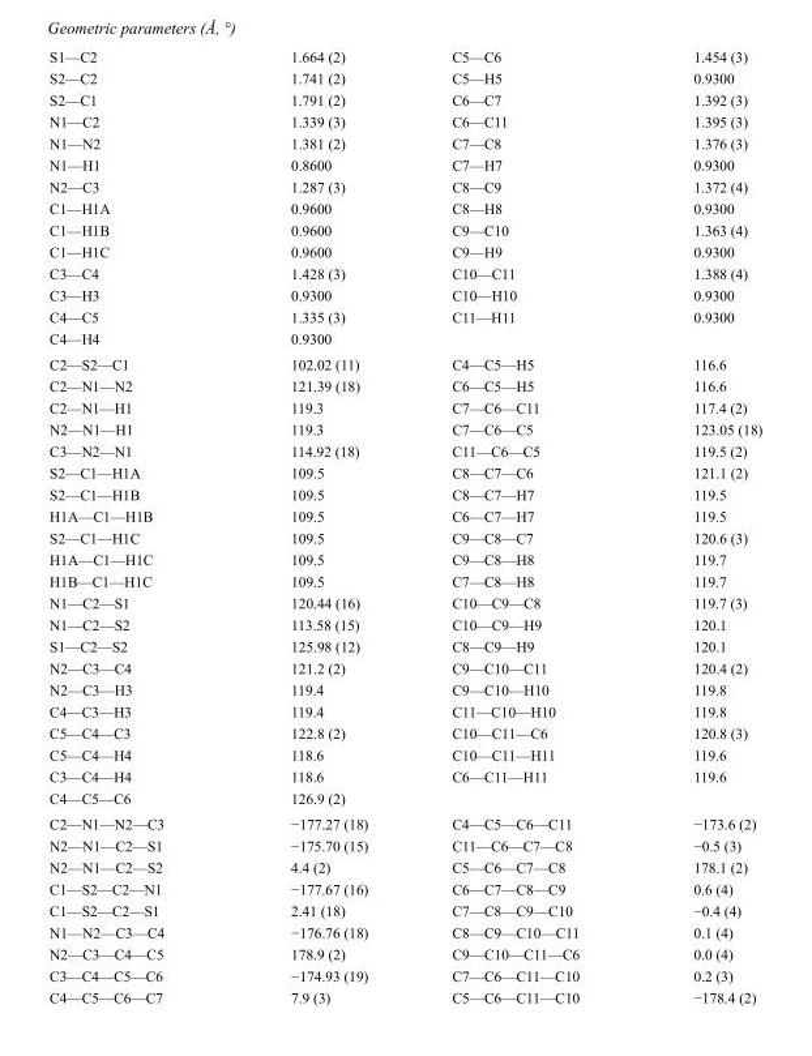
<table><tbody><tr><td>S1—C2</td><td>1.664 (2)</td><td>C5—C6</td><td>1.454 (3)</td></tr><tr><td>S2—C2</td><td>1.741 (2)</td><td>C5—H5</td><td>0.9300</td></tr><tr><td>S2—C1</td><td>1.791 (2)</td><td>C6—C7</td><td>1.392 (3)</td></tr><tr><td>N1—C2</td><td>1.339 (3)</td><td>C6—C11</td><td>1.395 (3)</td></tr><tr><td>N1—N2</td><td>1.381 (2)</td><td>C7—C8</td><td>1.376 (3)</td></tr><tr><td>N1—H1</td><td>0.8600</td><td>C7—H7</td><td>0.9300</td></tr><tr><td>N2—C3</td><td>1.287 (3)</td><td>C8—C9</td><td>1.372 (4)</td></tr><tr><td>C1—H1A</td><td>0.9600</td><td>C8—H8</td><td>0.9300</td></tr><tr><td>C1—H1B</td><td>0.9600</td><td>C9—C10</td><td>1.363 (4)</td></tr><tr><td>C1—H1C</td><td>0.9600</td><td>C9—H9</td><td>0.9300</td></tr><tr><td>C3—C4</td><td>1.428 (3)</td><td>C10—C11</td><td>1.388 (4)</td></tr><tr><td>C3—H3</td><td>0.9300</td><td>C10—H10</td><td>0.9300</td></tr><tr><td>C4—C5</td><td>1.335 (3)</td><td>C11—H11</td><td>0.9300</td></tr><tr><td>C4—H4</td><td>0.9300</td><td></td><td></td></tr><tr><td>C2—S2—C1</td><td>102.02 (11)</td><td>C4—C5—H5</td><td>116.6</td></tr><tr><td>C2—N1—N2</td><td>121.39 (18)</td><td>C6—C5—H5</td><td>116.6</td></tr><tr><td>C2—N1—H1</td><td>119.3</td><td>C7—C6—C11</td><td>117.4 (2)</td></tr><tr><td>N2—N1—H1</td><td>119.3</td><td>C7—C6—C5</td><td>123.05 (18)</td></tr><tr><td>C3—N2—N1</td><td>114.92 (18)</td><td>C11—C6—C5</td><td>119.5 (2)</td></tr><tr><td>S2—C1—H1A</td><td>109.5</td><td>C8—C7—C6</td><td>121.1 (2)</td></tr><tr><td>S2—C1—H1B</td><td>109.5</td><td>C8—C7—H7</td><td>119.5</td></tr><tr><td>H1A—C1—H1B</td><td>109.5</td><td>C6—C7—H7</td><td>119.5</td></tr><tr><td>S2—C1—H1C</td><td>109.5</td><td>C9—C8—C7</td><td>120.6 (3)</td></tr><tr><td>H1A—C1—H1C</td><td>109.5</td><td>C9—C8—H8</td><td>119.7</td></tr><tr><td>H1B—C1—H1C</td><td>109.5</td><td>C7—C8—H8</td><td>119.7</td></tr><tr><td>N1—C2—S1</td><td>120.44 (16)</td><td>C10—C9—C8</td><td>119.7 (3)</td></tr><tr><td>N1—C2—S2</td><td>113.58 (15)</td><td>C10—C9—H9</td><td>120.1</td></tr><tr><td>S1—C2—S2</td><td>125.98 (12)</td><td>C8—C9—H9</td><td>120.1</td></tr><tr><td>N2—C3—C4</td><td>121.2 (2)</td><td>C9—C10—C11</td><td>120.4 (2)</td></tr><tr><td>N2—C3—H3</td><td>119.4</td><td>C9—C10—H10</td><td>119.8</td></tr><tr><td>C4—C3—H3</td><td>119.4</td><td>C11—C10—H10</td><td>119.8</td></tr><tr><td>C5—C4—C3</td><td>122.8 (2)</td><td>C10—C11—C6</td><td>120.8 (3)</td></tr><tr><td>C5—C4—H4</td><td>118.6</td><td>C10—C11—H11</td><td>119.6</td></tr><tr><td>C3—C4—H4</td><td>118.6</td><td>C6—C11—H11</td><td>119.6</td></tr><tr><td>C4—C5—C6</td><td>126.9 (2)</td><td></td><td></td></tr><tr><td>C2—N1—N2—C3</td><td>−177.27 (18)</td><td>C4—C5—C6—C11</td><td>−173.6 (2)</td></tr><tr><td>N2—N1—C2—S1</td><td>−175.70 (15)</td><td>C11—C6—C7—C8</td><td>−0.5 (3)</td></tr><tr><td>N2—N1—C2—S2</td><td>4.4 (2)</td><td>C5—C6—C7—C8</td><td>178.1 (2)</td></tr><tr><td>C1—S2—C2—N1</td><td>−177.67 (16)</td><td>C6—C7—C8—C9</td><td>0.6 (4)</td></tr><tr><td>C1—S2—C2—S1</td><td>2.41 (18)</td><td>C7—C8—C9—C10</td><td>−0.4 (4)</td></tr><tr><td>N1—N2—C3—C4</td><td>−176.76 (18)</td><td>C8—C9—C10—C11</td><td>0.1 (4)</td></tr><tr><td>N2—C3—C4—C5</td><td>178.9 (2)</td><td>C9—C10—C11—C6</td><td>0.0 (4)</td></tr><tr><td>C3—C4—C5—C6</td><td>−174.93 (19)</td><td>C7—C6—C11—C10</td><td>0.2 (3)</td></tr><tr><td>C4—C5—C6—C7</td><td>7.9 (3)</td><td>C5—C6—C11—C10</td><td>−178.4 (2)</td></tr></tbody></table>